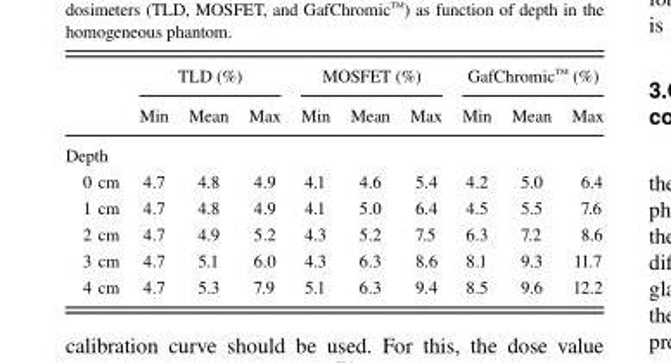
<table><thead><tr><td rowspan="2"></td><td colspan="3">TLD (%)</td><td colspan="3">MOSFET (%)</td><td colspan="3">GafChromic TM (%)</td></tr><tr><td>Min</td><td>Mean</td><td>Max</td><td>Min</td><td>Mean</td><td>Max</td><td>Min</td><td>Mean</td><td>Max</td></tr></thead><tbody><tr><td colspan="10">Depth</td></tr><tr><td>0 cm</td><td>4.7</td><td>4.8</td><td>4.9</td><td>4.1</td><td>4.6</td><td>5.4</td><td>4.2</td><td>5.0</td><td>6.4</td></tr><tr><td>1 cm</td><td>4.7</td><td>4.8</td><td>4.9</td><td>4.1</td><td>5.0</td><td>6.4</td><td>4.5</td><td>5.5</td><td>7.6</td></tr><tr><td>2 cm</td><td>4.7</td><td>4.9</td><td>5.2</td><td>4.3</td><td>5.2</td><td>7.5</td><td>6.3</td><td>7.2</td><td>8.6</td></tr><tr><td>3 cm</td><td>4.7</td><td>5.1</td><td>6.0</td><td>4.3</td><td>6.3</td><td>8.6</td><td>8.1</td><td>9.3</td><td>11.7</td></tr><tr><td>4 cm</td><td>4.7</td><td>5.3</td><td>7.9</td><td>5.1</td><td>6.3</td><td>9.4</td><td>8.5</td><td>9.6</td><td>12.2</td></tr></tbody></table>